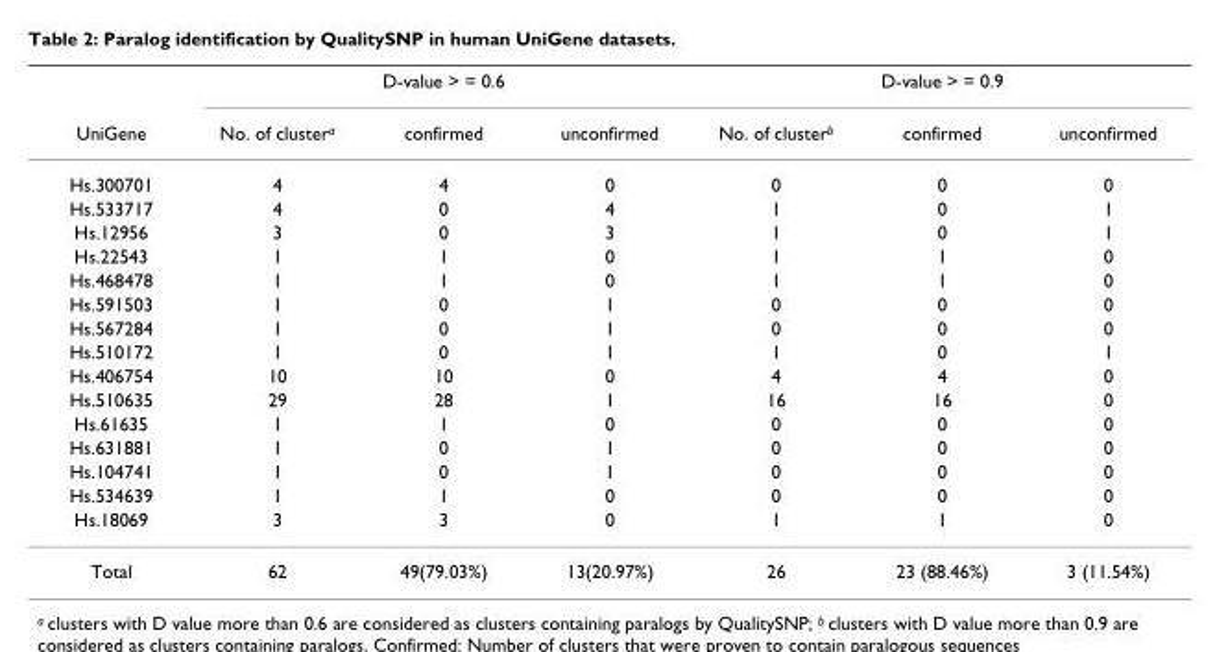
<table><thead><tr><td rowspan="2">UniGene</td><td colspan="3">D-value &gt; = 0.6</td><td colspan="3">D-value &gt; = 0.9</td></tr><tr><td>No. of cluster<sup>a</sup></td><td>confirmed</td><td>unconfirmed</td><td>No. of cluster<sup>b</sup></td><td>confirmed</td><td>unconfirmed</td></tr></thead><tbody><tr><td>Hs.300701</td><td>4</td><td>4</td><td>0</td><td>0</td><td>0</td><td>0</td></tr><tr><td>Hs.533717</td><td>4</td><td>0</td><td>4</td><td>1</td><td>0</td><td>1</td></tr><tr><td>Hs.12956</td><td>3</td><td>0</td><td>3</td><td>1</td><td>0</td><td>1</td></tr><tr><td>Hs.22543</td><td>1</td><td>1</td><td>0</td><td>1</td><td>1</td><td>0</td></tr><tr><td>Hs.468478</td><td>1</td><td>1</td><td>0</td><td>1</td><td>1</td><td>0</td></tr><tr><td>Hs.591503</td><td>1</td><td>0</td><td>1</td><td>0</td><td>0</td><td>0</td></tr><tr><td>Hs.567284</td><td>1</td><td>0</td><td>1</td><td>0</td><td>0</td><td>0</td></tr><tr><td>Hs.510172</td><td>1</td><td>0</td><td>1</td><td>1</td><td>0</td><td>1</td></tr><tr><td>Hs.406754</td><td>10</td><td>10</td><td>0</td><td>4</td><td>4</td><td>0</td></tr><tr><td>Hs.510635</td><td>29</td><td>28</td><td>1</td><td>16</td><td>16</td><td>0</td></tr><tr><td>Hs.61635</td><td>1</td><td>1</td><td>0</td><td>0</td><td>0</td><td>0</td></tr><tr><td>Hs.631881</td><td>1</td><td>0</td><td>1</td><td>0</td><td>0</td><td>0</td></tr><tr><td>Hs.104741</td><td>1</td><td>0</td><td>1</td><td>0</td><td>0</td><td>0</td></tr><tr><td>Hs.534639</td><td>1</td><td>1</td><td>0</td><td>0</td><td>0</td><td>0</td></tr><tr><td>Hs.18069</td><td>3</td><td>3</td><td>0</td><td>1</td><td>1</td><td>0</td></tr><tr><td>Total</td><td>62</td><td>49(79.03%)</td><td>13(20.97%)</td><td>26</td><td>23 (88.46%)</td><td>3 (11.54%)</td></tr></tbody></table>